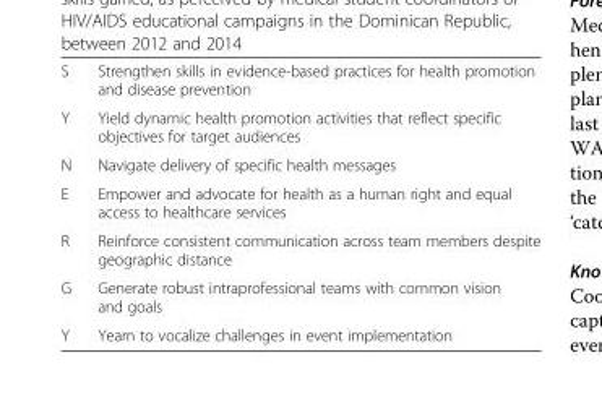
<table><tbody><tr><td>S</td><td>Strengthen skills in evidence-based practices for health promotion and disease prevention</td></tr><tr><td>Y</td><td>Yield dynamic health promotion activities that reflect specific objectives for target audiences</td></tr><tr><td>N</td><td>Navigate delivery of specific health messages</td></tr><tr><td>E</td><td>Empower and advocate for health as a human right and equal access to healthcare services</td></tr><tr><td>R</td><td>Reinforce consistent communication across team members despite geographic distance</td></tr><tr><td>G</td><td>Generate robust intraprofessional teams with common vision and goals</td></tr><tr><td>Y</td><td>Yearn to vocalize challenges in event implementation</td></tr></tbody></table>